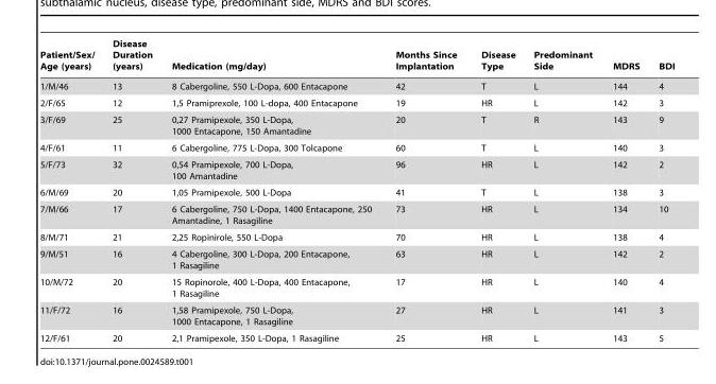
<table><thead><tr><td>Patient/Sex/ Age (years)</td><td>Disease Duration (years)</td><td>Medication (mg/day)</td><td>Months Since Implantation</td><td>Disease Type</td><td>Predominant Side</td><td>MDRS</td><td>BDI</td></tr></thead><tbody><tr><td>1/M/46</td><td>13</td><td>8 Cabergoline, 550 L-Dopa, 600 Entacapone</td><td>42</td><td>T</td><td>L</td><td>144</td><td>4</td></tr><tr><td>2/F/65</td><td>12</td><td>1,5 Pramiprexole, 100 L-dopa, 400 Entacapone</td><td>19</td><td>HR</td><td>L</td><td>142</td><td>3</td></tr><tr><td>3/F/69</td><td>25</td><td>0,27 Pramipexole, 350 L-Dopa, 1000 Entacapone, 150 Amantadine</td><td>20</td><td>T</td><td>R</td><td>143</td><td>9</td></tr><tr><td>4/F/61</td><td>11</td><td>6 Cabergoline, 775 L-Dopa, 300 Tolcapone</td><td>60</td><td>T</td><td>L</td><td>140</td><td>3</td></tr><tr><td>5/F/73</td><td>32</td><td>0,54 Pramipexole, 700 L-Dopa, 100 Amantadine</td><td>96</td><td>HR</td><td>L</td><td>142</td><td>2</td></tr><tr><td>6/M/69</td><td>20</td><td>1,05 Pramipexole, 500 L-Dopa</td><td>41</td><td>T</td><td>L</td><td>138</td><td>3</td></tr><tr><td>7/M/66</td><td>17</td><td>6 Cabergoline, 750 L-Dopa, 1400 Entacapone, 250 Amantadine, 1 Rasagiline</td><td>73</td><td>HR</td><td>L</td><td>134</td><td>10</td></tr><tr><td>8/M/71</td><td>21</td><td>2,25 Ropinirole, 550 L-Dopa</td><td>70</td><td>HR</td><td>L</td><td>138</td><td>4</td></tr><tr><td>9/M/51</td><td>16</td><td>4 Cabergoline, 300 L-Dopa, 200 Entacapone, 1 Rasagiline</td><td>63</td><td>HR</td><td>L</td><td>142</td><td>2</td></tr><tr><td>10/M/72</td><td>20</td><td>15 Ropinorole, 400 L-Dopa, 400 Entacapone, 1 Rasagiline</td><td>17</td><td>HR</td><td>L</td><td>140</td><td>4</td></tr><tr><td>11/F/72</td><td>16</td><td>1,58 Pramipexole, 750 L-Dopa, 1000 Entacapone, 1 Rasagiline</td><td>27</td><td>HR</td><td>L</td><td>141</td><td>3</td></tr><tr><td>12/F/61</td><td>20</td><td>2,1 Pramipexole, 350 L-Dopa, 1 Rasagiline</td><td>25</td><td>HR</td><td>L</td><td>143</td><td>5</td></tr></tbody></table>